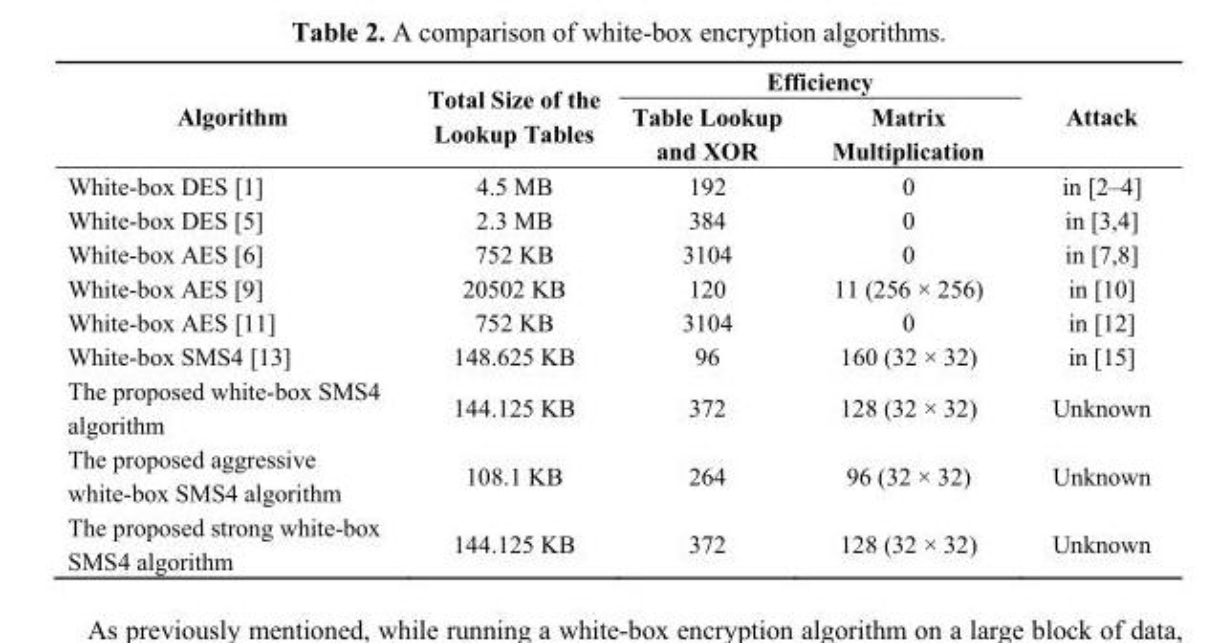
<table><thead><tr><td rowspan="2">Algorithm</td><td rowspan="2">Total Size of the Lookup Tables</td><td colspan="2">Efficiency</td><td rowspan="2">Attack</td></tr><tr><td>Table Lookup and XOR</td><td>Matrix Multiplication</td></tr></thead><tbody><tr><td>White-box DES [1]</td><td>4.5 MB</td><td>192</td><td>0</td><td>in [2–4]</td></tr><tr><td>White-box DES [5]</td><td>2.3 MB</td><td>384</td><td>0</td><td>in [3,4]</td></tr><tr><td>White-box AES [6]</td><td>752 KB</td><td>3104</td><td>0</td><td>in [7,8]</td></tr><tr><td>White-box AES [9]</td><td>20502 KB</td><td>120</td><td>11 (256 × 256)</td><td>in [10]</td></tr><tr><td>White-box AES [11]</td><td>752 KB</td><td>3104</td><td>0</td><td>in [12]</td></tr><tr><td>White-box SMS4 [13]</td><td>148.625 KB</td><td>96</td><td>160 (32 × 32)</td><td>in [15]</td></tr><tr><td>The proposed white-box SMS4 algorithm</td><td>144.125 KB</td><td>372</td><td>128 (32 × 32)</td><td>Unknown</td></tr><tr><td>The proposed aggressive white-box SMS4 algorithm</td><td>108.1 KB</td><td>264</td><td>96 (32 × 32)</td><td>Unknown</td></tr><tr><td>The proposed strong white-box SMS4 algorithm</td><td>144.125 KB</td><td>372</td><td>128 (32 × 32)</td><td>Unknown</td></tr></tbody></table>